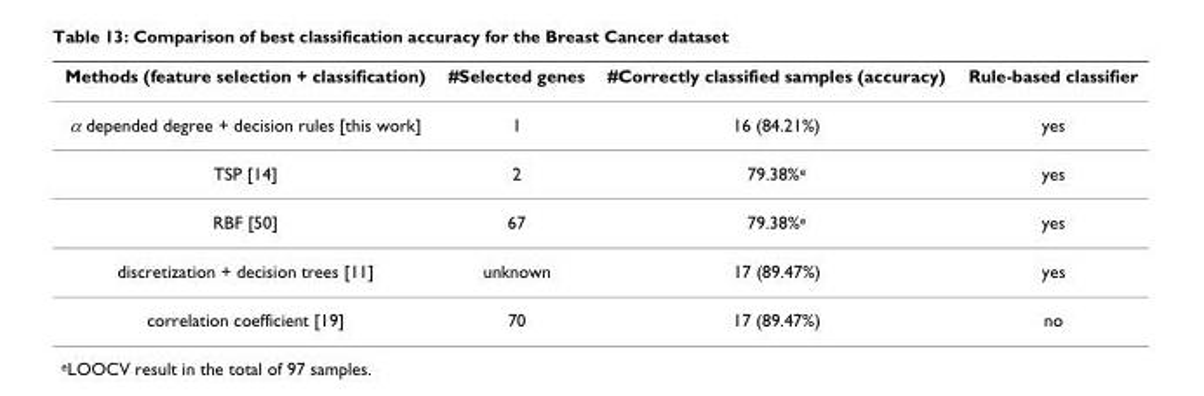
<table><thead><tr><td>Methods (feature selection + classification)</td><td>#Selected genes</td><td>#Correctly classified samples (accuracy)</td><td>Rule-based classifier</td></tr></thead><tbody><tr><td>α depended degree + decision rules [this work]</td><td>1</td><td>16 (84.21%)</td><td>yes</td></tr><tr><td>TSP [14]</td><td>2</td><td>79.38%<sup>e</sup></td><td>yes</td></tr><tr><td>RBF [50]</td><td>67</td><td>79.38%<sup>e</sup></td><td>yes</td></tr><tr><td>discretization + decision trees [11]</td><td>unknown</td><td>17 (89.47%)</td><td>yes</td></tr><tr><td>correlation coefficient [19]</td><td>70</td><td>17 (89.47%)</td><td>no</td></tr></tbody></table>